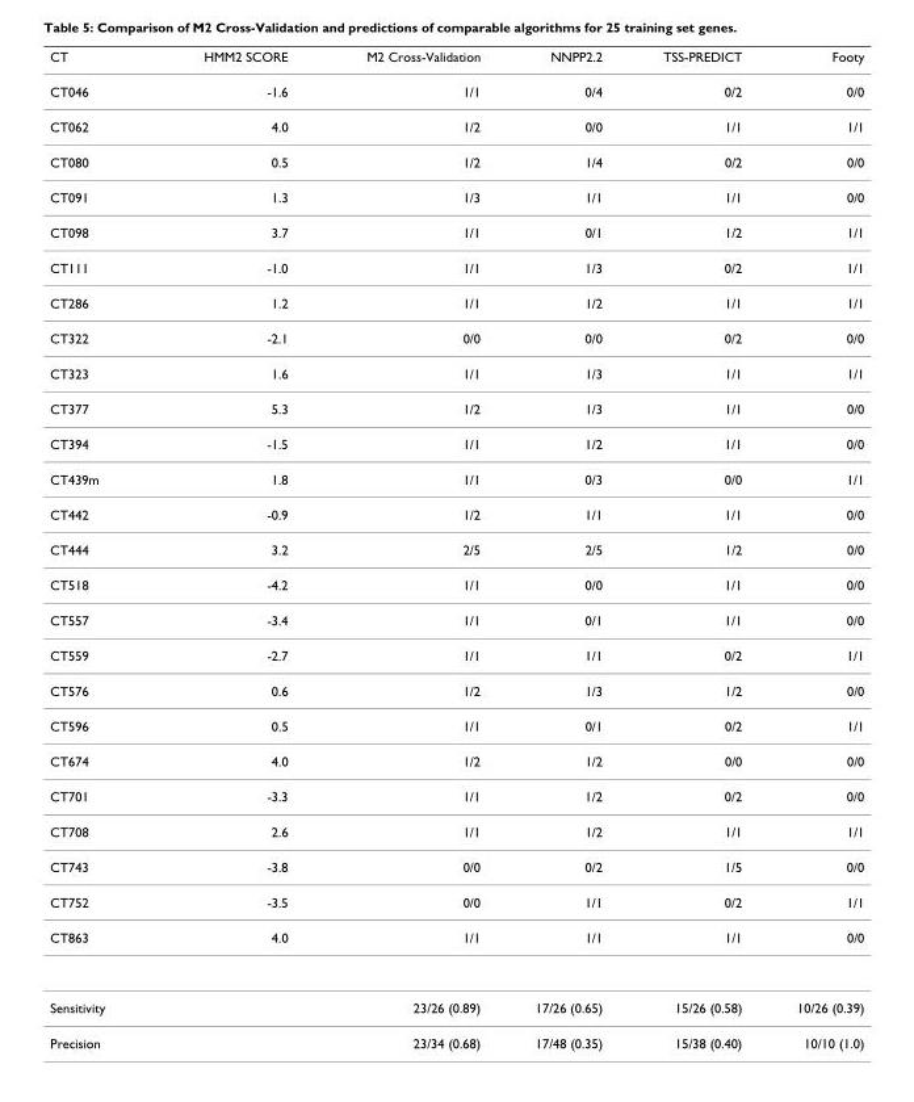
<table><thead><tr><td>CT</td><td>HMM2 SCORE</td><td>M2 Cross-Validation</td><td>NNPP2.2</td><td>TSS-PREDICT</td><td>Footy</td></tr></thead><tbody><tr><td>CT046</td><td>-1.6</td><td>1/1</td><td>0/4</td><td>0/2</td><td>0/0</td></tr><tr><td>CT062</td><td>4.0</td><td>1/2</td><td>0/0</td><td>1/1</td><td>1/1</td></tr><tr><td>CT080</td><td>0.5</td><td>1/2</td><td>1/4</td><td>0/2</td><td>0/0</td></tr><tr><td>CT091</td><td>1.3</td><td>1/3</td><td>1/1</td><td>1/1</td><td>0/0</td></tr><tr><td>CT098</td><td>3.7</td><td>1/1</td><td>0/1</td><td>1/2</td><td>1/1</td></tr><tr><td>CT111</td><td>-1.0</td><td>1/1</td><td>1/3</td><td>0/2</td><td>1/1</td></tr><tr><td>CT286</td><td>1.2</td><td>1/1</td><td>1/2</td><td>1/1</td><td>1/1</td></tr><tr><td>CT322</td><td>-2.1</td><td>0/0</td><td>0/0</td><td>0/2</td><td>0/0</td></tr><tr><td>CT323</td><td>1.6</td><td>1/1</td><td>1/3</td><td>1/1</td><td>1/1</td></tr><tr><td>CT377</td><td>5.3</td><td>1/2</td><td>1/3</td><td>1/1</td><td>0/0</td></tr><tr><td>CT394</td><td>-1.5</td><td>1/1</td><td>1/2</td><td>1/1</td><td>0/0</td></tr><tr><td>CT439m</td><td>1.8</td><td>1/1</td><td>0/3</td><td>0/0</td><td>1/1</td></tr><tr><td>CT442</td><td>-0.9</td><td>1/2</td><td>1/1</td><td>1/1</td><td>0/0</td></tr><tr><td>CT444</td><td>3.2</td><td>2/5</td><td>2/5</td><td>1/2</td><td>0/0</td></tr><tr><td>CT518</td><td>-4.2</td><td>1/1</td><td>0/0</td><td>1/1</td><td>0/0</td></tr><tr><td>CT557</td><td>-3.4</td><td>1/1</td><td>0/1</td><td>1/1</td><td>0/0</td></tr><tr><td>CT559</td><td>-2.7</td><td>1/1</td><td>1/1</td><td>0/2</td><td>1/1</td></tr><tr><td>CT576</td><td>0.6</td><td>1/2</td><td>1/3</td><td>1/2</td><td>0/0</td></tr><tr><td>CT596</td><td>0.5</td><td>1/1</td><td>0/1</td><td>0/2</td><td>1/1</td></tr><tr><td>CT674</td><td>4.0</td><td>1/2</td><td>1/2</td><td>0/0</td><td>0/0</td></tr><tr><td>CT701</td><td>-3.3</td><td>1/1</td><td>1/2</td><td>0/2</td><td>0/0</td></tr><tr><td>CT708</td><td>2.6</td><td>1/1</td><td>1/2</td><td>1/1</td><td>1/1</td></tr><tr><td>CT743</td><td>-3.8</td><td>0/0</td><td>0/2</td><td>1/5</td><td>0/0</td></tr><tr><td>CT752</td><td>-3.5</td><td>0/0</td><td>1/1</td><td>0/2</td><td>1/1</td></tr><tr><td>CT863</td><td>4.0</td><td>1/1</td><td>1/1</td><td>1/1</td><td>0/0</td></tr><tr><td>Sensitivity</td><td></td><td>23/26 (0.89)</td><td>17/26 (0.65)</td><td>15/26 (0.58)</td><td>10/26 (0.39)</td></tr><tr><td>Precision</td><td></td><td>23/34 (0.68)</td><td>17/48 (0.35)</td><td>15/38 (0.40)</td><td>10/10 (1.0)</td></tr></tbody></table>